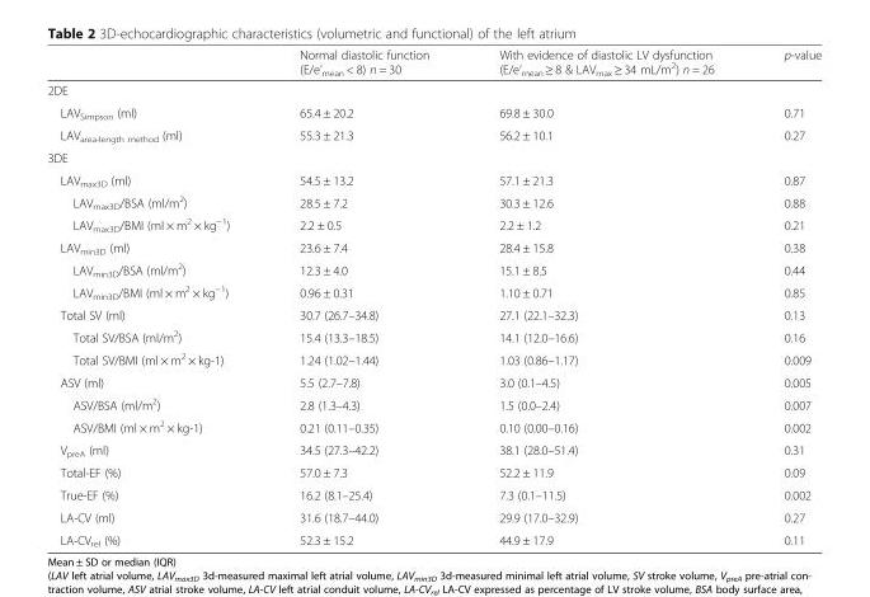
<table><thead><tr><td></td><td>Normal diastolic function (E/e’<sub>mean</sub> &lt; 8) n = 30</td><td>With evidence of diastolic LV dysfunction (E/e’<sub>mean</sub> ≥ 8 &amp; LAV<sub>max</sub> ≥ 34 mL/m<sup>2</sup>) n = 26</td><td>p-value</td></tr></thead><tbody><tr><td colspan="4">2DE</td></tr><tr><td>LAV<sub>Simpson</sub> (ml)</td><td>65.4 ± 20.2</td><td>69.8 ± 30.0</td><td>0.71</td></tr><tr><td>LAV<sub>area-length method</sub> (ml)</td><td>55.3 ± 21.3</td><td>56.2 ± 10.1</td><td>0.27</td></tr><tr><td colspan="4">3DE</td></tr><tr><td>LAV<sub>max3D</sub> (ml)</td><td>54.5 ± 13.2</td><td>57.1 ± 21.3</td><td>0.87</td></tr><tr><td>LAV<sub>max3D</sub>/BSA (ml/m<sup>2</sup>)</td><td>28.5 ± 7.2</td><td>30.3 ± 12.6</td><td>0.88</td></tr><tr><td>LAV<sub>max3D</sub>/BMI (ml × m<sup>2</sup> × kg<sup>−1</sup>)</td><td>2.2 ± 0.5</td><td>2.2 ± 1.2</td><td>0.21</td></tr><tr><td>LAV<sub>min3D</sub> (ml)</td><td>23.6 ± 7.4</td><td>28.4 ± 15.8</td><td>0.38</td></tr><tr><td>LAV<sub>min3D</sub>/BSA (ml/m<sup>2</sup>)</td><td>12.3 ± 4.0</td><td>15.1 ± 8.5</td><td>0.44</td></tr><tr><td>LAV<sub>min3D</sub>/BMI (ml × m<sup>2</sup> × kg<sup>−1</sup>)</td><td>0.96 ± 0.31</td><td>1.10 ± 0.71</td><td>0.85</td></tr><tr><td>Total SV (ml)</td><td>30.7 (26.7–34.8)</td><td>27.1 (22.1–32.3)</td><td>0.13</td></tr><tr><td>Total SV/BSA (ml/m<sup>2</sup>)</td><td>15.4 (13.3–18.5)</td><td>14.1 (12.0–16.6)</td><td>0.16</td></tr><tr><td>Total SV/BMI (ml × m<sup>2</sup> × kg-1)</td><td>1.24 (1.02–1.44)</td><td>1.03 (0.86–1.17)</td><td>0.009</td></tr><tr><td>ASV (ml)</td><td>5.5 (2.7–7.8)</td><td>3.0 (0.1–4.5)</td><td>0.005</td></tr><tr><td>ASV/BSA (ml/m<sup>2</sup>)</td><td>2.8 (1.3–4.3)</td><td>1.5 (0.0–2.4)</td><td>0.007</td></tr><tr><td>ASV/BMI (ml × m<sup>2</sup> × kg-1)</td><td>0.21 (0.11–0.35)</td><td>0.10 (0.00–0.16)</td><td>0.002</td></tr><tr><td>V<sub>preA</sub> (ml)</td><td>34.5 (27.3–42.2)</td><td>38.1 (28.0–51.4)</td><td>0.31</td></tr><tr><td>Total-EF (%)</td><td>57.0 ± 7.3</td><td>52.2 ± 11.9</td><td>0.09</td></tr><tr><td>True-EF (%)</td><td>16.2 (8.1–25.4)</td><td>7.3 (0.1–11.5)</td><td>0.002</td></tr><tr><td>LA-CV (ml)</td><td>31.6 (18.7–44.0)</td><td>29.9 (17.0–32.9)</td><td>0.27</td></tr><tr><td>LA-CV<sub>rel</sub> (%)</td><td>52.3 ± 15.2</td><td>44.9 ± 17.9</td><td>0.11</td></tr></tbody></table>